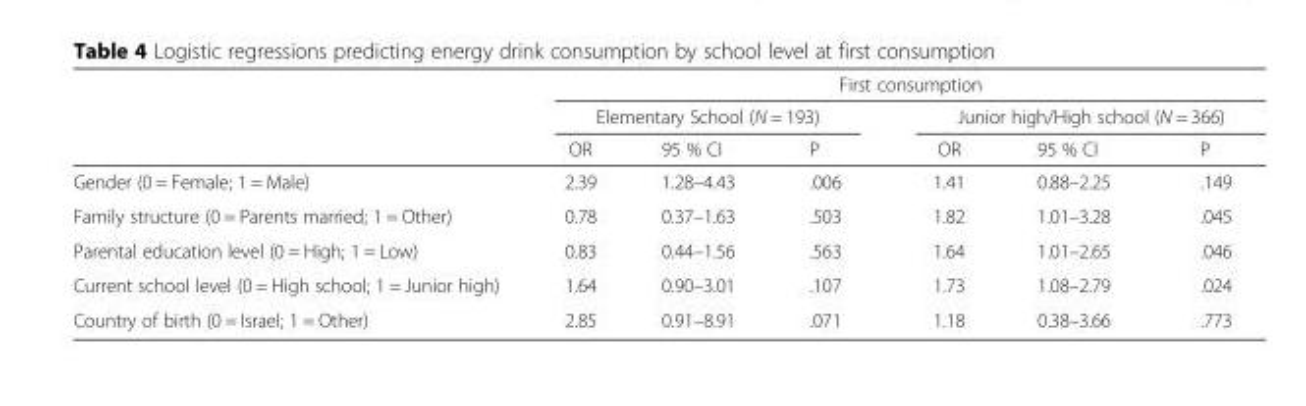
<table><thead><tr><td rowspan="3"></td><td colspan="6">First consumption</td></tr><tr><td colspan="3">Elementary School (N = 193)</td><td colspan="3">Junior high/High school (N = 366)</td></tr><tr><td>OR</td><td>95 % CI</td><td>P</td><td>OR</td><td>95 % CI</td><td>P</td></tr></thead><tbody><tr><td>Gender (0 = Female; 1 = Male)</td><td>2.39</td><td>1.28–4.43</td><td>.006</td><td>1.41</td><td>0.88–2.25</td><td>.149</td></tr><tr><td>Family structure (0 = Parents married; 1 = Other)</td><td>0.78</td><td>0.37–1.63</td><td>.503</td><td>1.82</td><td>1.01–3.28</td><td>.045</td></tr><tr><td>Parental education level (0 = High; 1 = Low)</td><td>0.83</td><td>0.44–1.56</td><td>.563</td><td>1.64</td><td>1.01–2.65</td><td>.046</td></tr><tr><td>Current school level (0 = High school; 1 = Junior high)</td><td>1.64</td><td>0.90–3.01</td><td>.107</td><td>1.73</td><td>1.08–2.79</td><td>.024</td></tr><tr><td>Country of birth (0 = Israel; 1 = Other)</td><td>2.85</td><td>0.91–8.91</td><td>.071</td><td>1.18</td><td>0.38–3.66</td><td>.773</td></tr></tbody></table>